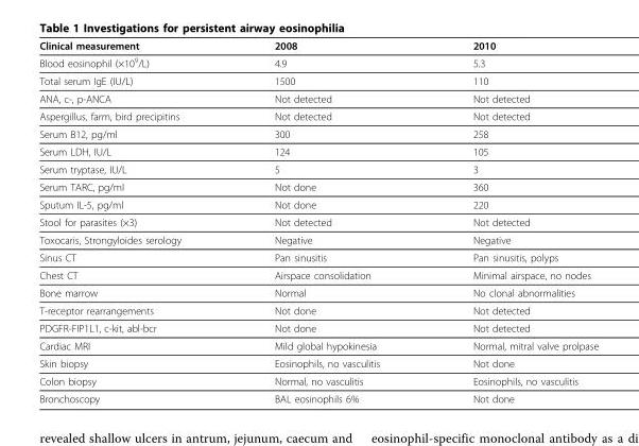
<table><thead><tr><td>Clinical measurement</td><td>2008</td><td>2010</td></tr></thead><tbody><tr><td>Blood eosinophil (×10<sup>9</sup>/L)</td><td>4.9</td><td>5.3</td></tr><tr><td>Total serum IgE (IU/L)</td><td>1500</td><td>110</td></tr><tr><td>ANA, c-, p-ANCA</td><td>Not detected</td><td>Not detected</td></tr><tr><td>Aspergillus, farm, bird precipitins</td><td>Not detected</td><td>Not detected</td></tr><tr><td>Serum B12, pg/ml</td><td>300</td><td>258</td></tr><tr><td>Serum LDH, IU/L</td><td>124</td><td>105</td></tr><tr><td>Serum tryptase, IU/L</td><td>5</td><td>3</td></tr><tr><td>Serum TARC, pg/ml</td><td>Not done</td><td>360</td></tr><tr><td>Sputum IL-5, pg/ml</td><td>Not done</td><td>220</td></tr><tr><td>Stool for parasites (×3)</td><td>Not detected</td><td>Not detected</td></tr><tr><td>Toxocaris, Strongyloides serology</td><td>Negative</td><td>Negative</td></tr><tr><td>Sinus CT</td><td>Pan sinusitis</td><td>Pan sinusitis, polyps</td></tr><tr><td>Chest CT</td><td>Airspace consolidation</td><td>Minimal airspace, no nodes</td></tr><tr><td>Bone marrow</td><td>Normal</td><td>No clonal abnormalities</td></tr><tr><td>T-receptor rearrangements</td><td>Not done</td><td>Not detected</td></tr><tr><td>PDGFR-FIP1L1, c-kit, abl-bcr</td><td>Not done</td><td>Not detected</td></tr><tr><td>Cardiac MRI</td><td>Mild global hypokinesia</td><td>Normal, mitral valve prolpase</td></tr><tr><td>Skin biopsy</td><td>Eosinophils, no vasculitis</td><td>Not done</td></tr><tr><td>Colon biopsy</td><td>Normal, no vasculitis</td><td>Eosinophils, no vasculitis</td></tr><tr><td>Bronchoscopy</td><td>BAL eosinophils 6%</td><td>Not done</td></tr></tbody></table>